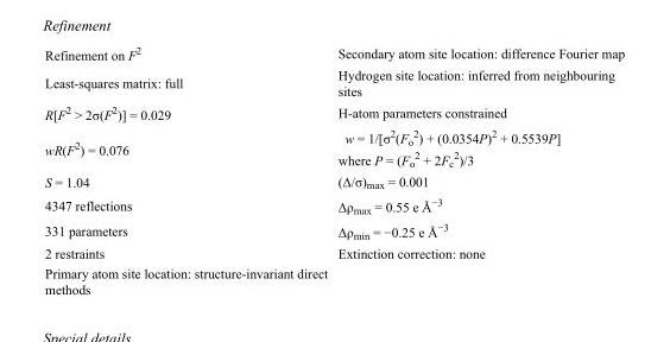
<table><tbody><tr><td>Refinement on F<sup>2</sup></td><td>Secondary atom site location: difference Fourier map</td></tr><tr><td>Least-squares matrix: full</td><td>Hydrogen site location: inferred from neighbouring sites</td></tr><tr><td>R[F<sup>2</sup> &gt; 2σ(F<sup>2</sup>)] = 0.029</td><td>H-atom parameters constrained</td></tr><tr><td>wR(F<sup>2</sup>) = 0.076</td><td>w = 1/[σ<sup>2</sup>(F<sub>o</sub> <sup>2</sup>) + (0.0354P)<sup>2</sup> + 0.5539P] where P = (F<sub>o</sub> <sup>2</sup> + 2F<sub>c</sub> <sup>2</sup>)/3</td></tr><tr><td>S = 1.04</td><td>(Δ/σ)<sub>max</sub> = 0.001</td></tr><tr><td>4347 reflections</td><td>Δρ<sub>max</sub> = 0.55 e Å<sup>−3</sup></td></tr><tr><td>331 parameters</td><td>Δρ<sub>min</sub> = −0.25 e Å<sup>−3</sup></td></tr><tr><td>2 restraints</td><td>Extinction correction: none</td></tr><tr><td>Primary atom site location: structure-invariant direct methods</td><td></td></tr></tbody></table>